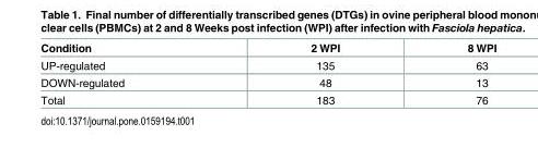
<table><thead><tr><td>Condition</td><td>2 WPI</td><td>8 WPI</td></tr></thead><tbody><tr><td>UP-regulated</td><td>135</td><td>63</td></tr><tr><td>DOWN-regulated</td><td>48</td><td>13</td></tr><tr><td>Total</td><td>183</td><td>76</td></tr></tbody></table>